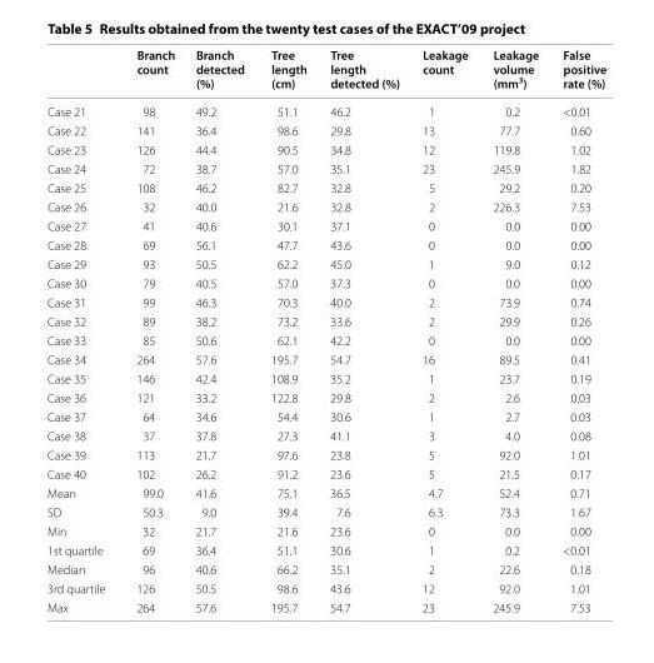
<table><thead><tr><td></td><td>Branch count</td><td>Branch detected (%)</td><td>Tree length (cm)</td><td>Tree length detected (%)</td><td>Leakage count</td><td>Leakage volume (mm<sup>3</sup>)</td><td>False positive rate (%)</td></tr></thead><tbody><tr><td>Case 21</td><td>98</td><td>49.2</td><td>51.1</td><td>46.2</td><td>1</td><td>0.2</td><td>&lt;0.01</td></tr><tr><td>Case 22</td><td>141</td><td>36.4</td><td>98.6</td><td>29.8</td><td>13</td><td>77.7</td><td>0.60</td></tr><tr><td>Case 23</td><td>126</td><td>44.4</td><td>90.5</td><td>34.8</td><td>12</td><td>119.8</td><td>1.02</td></tr><tr><td>Case 24</td><td>72</td><td>38.7</td><td>57.0</td><td>35.1</td><td>23</td><td>245.9</td><td>1.82</td></tr><tr><td>Case 25</td><td>108</td><td>46.2</td><td>82.7</td><td>32.8</td><td>5</td><td>29.2</td><td>0.20</td></tr><tr><td>Case 26</td><td>32</td><td>40.0</td><td>21.6</td><td>32.8</td><td>2</td><td>226.3</td><td>7.53</td></tr><tr><td>Case 27</td><td>41</td><td>40.6</td><td>30.1</td><td>37.1</td><td>0</td><td>0.0</td><td>0.00</td></tr><tr><td>Case 28</td><td>69</td><td>56.1</td><td>47.7</td><td>43.6</td><td>0</td><td>0.0</td><td>0.00</td></tr><tr><td>Case 29</td><td>93</td><td>50.5</td><td>62.2</td><td>45.0</td><td>1</td><td>9.0</td><td>0.12</td></tr><tr><td>Case 30</td><td>79</td><td>40.5</td><td>57.0</td><td>37.3</td><td>0</td><td>0.0</td><td>0.00</td></tr><tr><td>Case 31</td><td>99</td><td>46.3</td><td>70.3</td><td>40.0</td><td>2</td><td>73.9</td><td>0.74</td></tr><tr><td>Case 32</td><td>89</td><td>38.2</td><td>73.2</td><td>33.6</td><td>2</td><td>29.9</td><td>0.26</td></tr><tr><td>Case 33</td><td>85</td><td>50.6</td><td>62.1</td><td>42.2</td><td>0</td><td>0.0</td><td>0.00</td></tr><tr><td>Case 34</td><td>264</td><td>57.6</td><td>195.7</td><td>54.7</td><td>16</td><td>89.5</td><td>0.41</td></tr><tr><td>Case 35</td><td>146</td><td>42.4</td><td>108.9</td><td>35.2</td><td>1</td><td>23.7</td><td>0.19</td></tr><tr><td>Case 36</td><td>121</td><td>33.2</td><td>122.8</td><td>29.8</td><td>2</td><td>2.6</td><td>0.03</td></tr><tr><td>Case 37</td><td>64</td><td>34.6</td><td>54.4</td><td>30.6</td><td>1</td><td>2.7</td><td>0.03</td></tr><tr><td>Case 38</td><td>37</td><td>37.8</td><td>27.3</td><td>41.1</td><td>3</td><td>4.0</td><td>0.08</td></tr><tr><td>Case 39</td><td>113</td><td>21.7</td><td>97.6</td><td>23.8</td><td>5</td><td>92.0</td><td>1.01</td></tr><tr><td>Case 40</td><td>102</td><td>26.2</td><td>91.2</td><td>23.6</td><td>5</td><td>21.5</td><td>0.17</td></tr><tr><td>Mean</td><td>99.0</td><td>41.6</td><td>75.1</td><td>36.5</td><td>4.7</td><td>52.4</td><td>0.71</td></tr><tr><td>SD</td><td>50.3</td><td>9.0</td><td>39.4</td><td>7.6</td><td>6.3</td><td>73.3</td><td>1.67</td></tr><tr><td>Min</td><td>32</td><td>21.7</td><td>21.6</td><td>23.6</td><td>0</td><td>0.0</td><td>0.00</td></tr><tr><td>1st quartile</td><td>69</td><td>36.4</td><td>51.1</td><td>30.6</td><td>1</td><td>0.2</td><td>&lt;0.01</td></tr><tr><td>Median</td><td>96</td><td>40.6</td><td>66.2</td><td>35.1</td><td>2</td><td>22.6</td><td>0.18</td></tr><tr><td>3rd quartile</td><td>126</td><td>50.5</td><td>98.6</td><td>43.6</td><td>12</td><td>92.0</td><td>1.01</td></tr><tr><td>Max</td><td>264</td><td>57.6</td><td>195.7</td><td>54.7</td><td>23</td><td>245.9</td><td>7.53</td></tr></tbody></table>